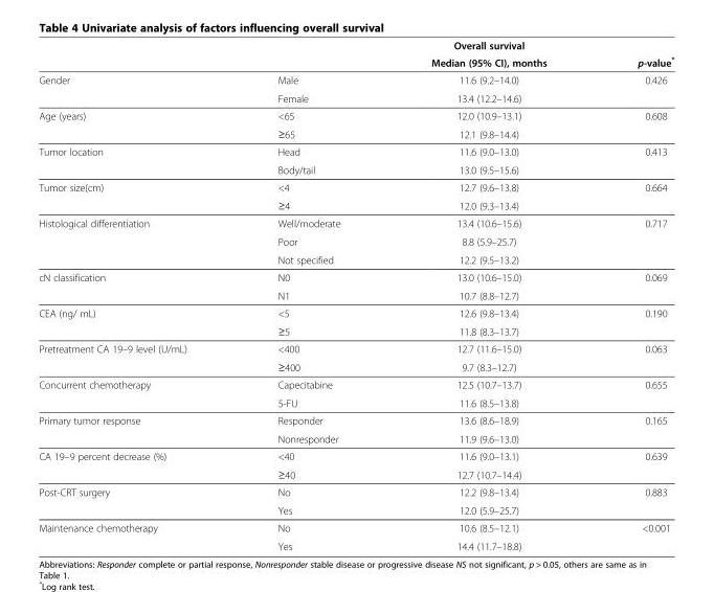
<table><thead><tr><td rowspan="2"></td><td rowspan="2"></td><td rowspan="2">Overall survival Median (95% CI), months</td><td rowspan="2">p-value*</td></tr><tr></tr></thead><tbody><tr><td rowspan="2">Gender</td><td>Male</td><td>11.6 (9.2–14.0)</td><td>0.426</td></tr><tr><td>Female</td><td>13.4 (12.2–14.6)</td><td></td></tr><tr><td rowspan="2">Age (years)</td><td>&lt;65</td><td>12.0 (10.9–13.1)</td><td>0.608</td></tr><tr><td>≥65</td><td>12.1 (9.8–14.4)</td><td></td></tr><tr><td rowspan="2">Tumor location</td><td>Head</td><td>11.6 (9.0–13.0)</td><td>0.413</td></tr><tr><td>Body/tail</td><td>13.0 (9.5–15.6)</td><td></td></tr><tr><td rowspan="2">Tumor size(cm)</td><td>&lt;4</td><td>12.7 (9.6–13.8)</td><td>0.664</td></tr><tr><td>≥4</td><td>12.0 (9.3–13.4)</td><td></td></tr><tr><td rowspan="3">Histological differentiation</td><td>Well/moderate</td><td>13.4 (10.6–15.6)</td><td>0.717</td></tr><tr><td>Poor</td><td>8.8 (5.9–25.7)</td><td></td></tr><tr><td>Not specified</td><td>12.2 (9.5–13.2)</td><td></td></tr><tr><td rowspan="2">cN classification</td><td>N0</td><td>13.0 (10.6–15.0)</td><td>0.069</td></tr><tr><td>N1</td><td>10.7 (8.8–12.7)</td><td></td></tr><tr><td rowspan="2">CEA (ng/ mL)</td><td>&lt;5</td><td>12.6 (9.8–13.4)</td><td>0.190</td></tr><tr><td>≥5</td><td>11.8 (8.3–13.7)</td><td></td></tr><tr><td rowspan="2">Pretreatment CA 19–9 level (U/mL)</td><td>&lt;400</td><td>12.7 (11.6–15.0)</td><td>0.063</td></tr><tr><td>≥400</td><td>9.7 (8.3–12.7)</td><td></td></tr><tr><td rowspan="2">Concurrent chemotherapy</td><td>Capecitabine</td><td>12.5 (10.7–13.7)</td><td>0.655</td></tr><tr><td>5-FU</td><td>11.6 (8.5–13.8)</td><td></td></tr><tr><td rowspan="2">Primary tumor response</td><td>Responder</td><td>13.6 (8.6–18.9)</td><td>0.165</td></tr><tr><td>Nonresponder</td><td>11.9 (9.6–13.0)</td><td></td></tr><tr><td rowspan="2">CA 19–9 percent decrease (%)</td><td>&lt;40</td><td>11.6 (9.0–13.1)</td><td>0.639</td></tr><tr><td>≥40</td><td>12.7 (10.7–14.4)</td><td></td></tr><tr><td rowspan="2">Post-CRT surgery</td><td>No</td><td>12.2 (9.8–13.4)</td><td>0.883</td></tr><tr><td>Yes</td><td>12.0 (5.9–25.7)</td><td></td></tr><tr><td rowspan="2">Maintenance chemotherapy</td><td>No</td><td>10.6 (8.5–12.1)</td><td>&lt;0.001</td></tr><tr><td>Yes</td><td>14.4 (11.7–18.8)</td><td></td></tr></tbody></table>